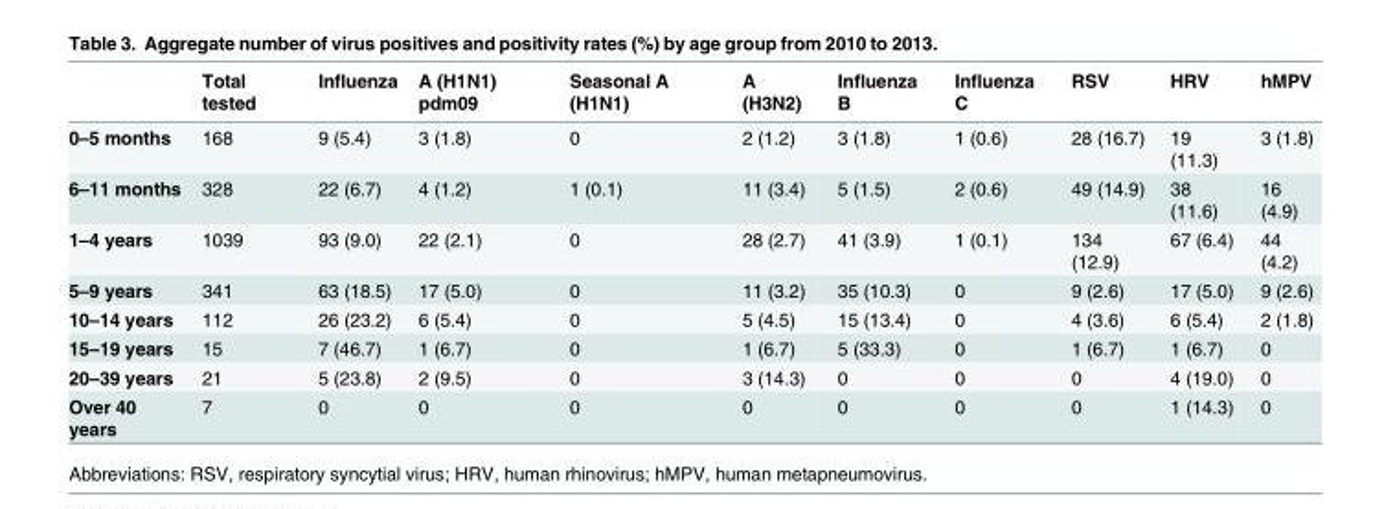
<table><thead><tr><td></td><td>Total tested</td><td>Influenza</td><td>A (H1N1) pdm09</td><td>Seasonal A (H1N1)</td><td>A (H3N2)</td><td>Influenza B</td><td>Influenza C</td><td>RSV</td><td>HRV</td><td>hMPV</td></tr></thead><tbody><tr><td>0–5 months</td><td>168</td><td>9 (5.4)</td><td>3 (1.8)</td><td>0</td><td>2 (1.2)</td><td>3 (1.8)</td><td>1 (0.6)</td><td>28 (16.7)</td><td>19 (11.3)</td><td>3 (1.8)</td></tr><tr><td>6–11 months</td><td>328</td><td>22 (6.7)</td><td>4 (1.2)</td><td>1 (0.1)</td><td>11 (3.4)</td><td>5 (1.5)</td><td>2 (0.6)</td><td>49 (14.9)</td><td>38 (11.6)</td><td>16 (4.9)</td></tr><tr><td>1–4 years</td><td>1039</td><td>93 (9.0)</td><td>22 (2.1)</td><td>0</td><td>28 (2.7)</td><td>41 (3.9)</td><td>1 (0.1)</td><td>134 (12.9)</td><td>67 (6.4)</td><td>44 (4.2)</td></tr><tr><td>5–9 years</td><td>341</td><td>63 (18.5)</td><td>17 (5.0)</td><td>0</td><td>11 (3.2)</td><td>35 (10.3)</td><td>0</td><td>9 (2.6)</td><td>17 (5.0)</td><td>9 (2.6)</td></tr><tr><td>10–14 years</td><td>112</td><td>26 (23.2)</td><td>6 (5.4)</td><td>0</td><td>5 (4.5)</td><td>15 (13.4)</td><td>0</td><td>4 (3.6)</td><td>6 (5.4)</td><td>2 (1.8)</td></tr><tr><td>15–19 years</td><td>15</td><td>7 (46.7)</td><td>1 (6.7)</td><td>0</td><td>1 (6.7)</td><td>5 (33.3)</td><td>0</td><td>1 (6.7)</td><td>1 (6.7)</td><td>0</td></tr><tr><td>20–39 years</td><td>21</td><td>5 (23.8)</td><td>2 (9.5)</td><td>0</td><td>3 (14.3)</td><td>0</td><td>0</td><td>0</td><td>4 (19.0)</td><td>0</td></tr><tr><td>Over 40 years</td><td>7</td><td>0</td><td>0</td><td>0</td><td>0</td><td>0</td><td>0</td><td>0</td><td>1 (14.3)</td><td>0</td></tr></tbody></table>